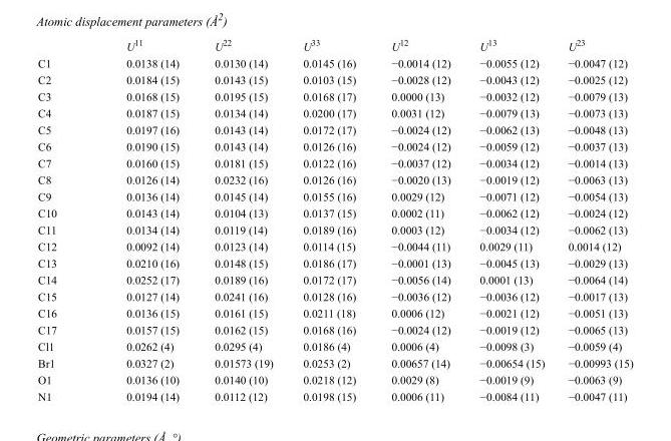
<table><thead><tr><td></td><td>U<sup>11</sup></td><td>U<sup>22</sup></td><td>U<sup>33</sup></td><td>U<sup>12</sup></td><td>U<sup>13</sup></td><td>U<sup>23</sup></td></tr></thead><tbody><tr><td>C1</td><td>0.0138 (14)</td><td>0.0130 (14)</td><td>0.0145 (16)</td><td>−0.0014 (12)</td><td>−0.0055 (12)</td><td>−0.0047 (12)</td></tr><tr><td>C2</td><td>0.0184 (15)</td><td>0.0143 (15)</td><td>0.0103 (15)</td><td>−0.0028 (12)</td><td>−0.0043 (12)</td><td>−0.0025 (12)</td></tr><tr><td>C3</td><td>0.0168 (15)</td><td>0.0195 (15)</td><td>0.0168 (17)</td><td>0.0000 (13)</td><td>−0.0032 (12)</td><td>−0.0079 (13)</td></tr><tr><td>C4</td><td>0.0187 (15)</td><td>0.0134 (14)</td><td>0.0200 (17)</td><td>0.0031 (12)</td><td>−0.0079 (13)</td><td>−0.0073 (13)</td></tr><tr><td>C5</td><td>0.0197 (16)</td><td>0.0143 (14)</td><td>0.0172 (17)</td><td>−0.0024 (12)</td><td>−0.0062 (13)</td><td>−0.0048 (13)</td></tr><tr><td>C6</td><td>0.0190 (15)</td><td>0.0143 (14)</td><td>0.0126 (16)</td><td>−0.0024 (12)</td><td>−0.0059 (12)</td><td>−0.0037 (13)</td></tr><tr><td>C7</td><td>0.0160 (15)</td><td>0.0181 (15)</td><td>0.0122 (16)</td><td>−0.0037 (12)</td><td>−0.0034 (12)</td><td>−0.0014 (13)</td></tr><tr><td>C8</td><td>0.0126 (14)</td><td>0.0232 (16)</td><td>0.0126 (16)</td><td>−0.0020 (13)</td><td>−0.0019 (12)</td><td>−0.0063 (13)</td></tr><tr><td>C9</td><td>0.0136 (14)</td><td>0.0145 (14)</td><td>0.0155 (16)</td><td>0.0029 (12)</td><td>−0.0071 (12)</td><td>−0.0054 (13)</td></tr><tr><td>C10</td><td>0.0143 (14)</td><td>0.0104 (13)</td><td>0.0137 (15)</td><td>0.0002 (11)</td><td>−0.0062 (12)</td><td>−0.0024 (12)</td></tr><tr><td>C11</td><td>0.0134 (14)</td><td>0.0119 (14)</td><td>0.0189 (16)</td><td>0.0003 (12)</td><td>−0.0034 (12)</td><td>−0.0062 (13)</td></tr><tr><td>C12</td><td>0.0092 (14)</td><td>0.0123 (14)</td><td>0.0114 (15)</td><td>−0.0044 (11)</td><td>0.0029 (11)</td><td>0.0014 (12)</td></tr><tr><td>C13</td><td>0.0210 (16)</td><td>0.0148 (15)</td><td>0.0186 (17)</td><td>−0.0001 (13)</td><td>−0.0045 (13)</td><td>−0.0029 (13)</td></tr><tr><td>C14</td><td>0.0252 (17)</td><td>0.0189 (16)</td><td>0.0172 (17)</td><td>−0.0056 (14)</td><td>0.0001 (13)</td><td>−0.0064 (14)</td></tr><tr><td>C15</td><td>0.0127 (14)</td><td>0.0241 (16)</td><td>0.0128 (16)</td><td>−0.0036 (12)</td><td>−0.0036 (12)</td><td>−0.0017 (13)</td></tr><tr><td>C16</td><td>0.0136 (15)</td><td>0.0161 (15)</td><td>0.0211 (18)</td><td>0.0006 (12)</td><td>−0.0021 (12)</td><td>−0.0051 (13)</td></tr><tr><td>C17</td><td>0.0157 (15)</td><td>0.0162 (15)</td><td>0.0168 (16)</td><td>−0.0024 (12)</td><td>−0.0019 (12)</td><td>−0.0065 (13)</td></tr><tr><td>Cl1</td><td>0.0262 (4)</td><td>0.0295 (4)</td><td>0.0186 (4)</td><td>0.0006 (4)</td><td>−0.0098 (3)</td><td>−0.0059 (4)</td></tr><tr><td>Br1</td><td>0.0327 (2)</td><td>0.01573 (19)</td><td>0.0253 (2)</td><td>0.00657 (14)</td><td>−0.00654 (15)</td><td>−0.00993 (15)</td></tr><tr><td>O1</td><td>0.0136 (10)</td><td>0.0140 (10)</td><td>0.0218 (12)</td><td>0.0029 (8)</td><td>−0.0019 (9)</td><td>−0.0063 (9)</td></tr><tr><td>N1</td><td>0.0194 (14)</td><td>0.0112 (12)</td><td>0.0198 (15)</td><td>0.0006 (11)</td><td>−0.0084 (11)</td><td>−0.0047 (11)</td></tr></tbody></table>